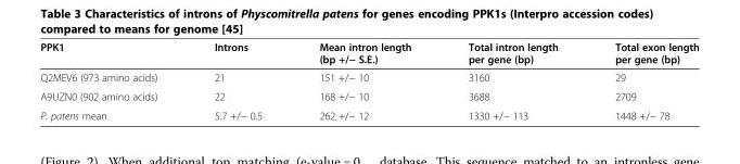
<table><thead><tr><td>PPK1</td><td>Introns</td><td>Mean intron length (bp +/− S.E.)</td><td>Total intron length per gene (bp)</td><td>Total exon length per gene (bp)</td></tr></thead><tbody><tr><td>Q2MEV6 (973 amino acids)</td><td>21</td><td>151 +/− 10</td><td>3160</td><td>29</td></tr><tr><td>A9UZN0 (902 amino acids)</td><td>22</td><td>168 +/− 10</td><td>3688</td><td>2709</td></tr><tr><td>P. patens mean</td><td>5.7 +/− 0.5</td><td>262 +/− 12</td><td>1330 +/− 113</td><td>1448 +/− 78</td></tr></tbody></table>